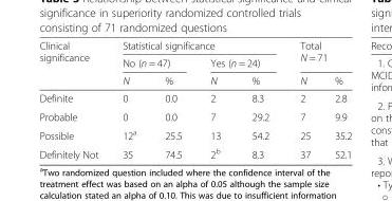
<table><thead><tr><td rowspan="3">Clinical significance</td><td colspan="4">Statistical significance</td><td rowspan="2" colspan="2">Total N = 71</td></tr><tr><td colspan="2">No (n = 47)</td><td colspan="2">Yes (n = 24)</td></tr><tr><td>N</td><td>%</td><td>N</td><td>%</td><td>N</td><td>%</td></tr></thead><tbody><tr><td>Definite</td><td>0</td><td>0.0</td><td>2</td><td>8.3</td><td>2</td><td>2.8</td></tr><tr><td>Probable</td><td>0</td><td>0.0</td><td>7</td><td>29.2</td><td>7</td><td>9.9</td></tr><tr><td>Possible</td><td>12<sup>a</sup></td><td>25.5</td><td>13</td><td>54.2</td><td>25</td><td>35.2</td></tr><tr><td>Definitely Not</td><td>35</td><td>74.5</td><td>2<sup>b</sup></td><td>8.3</td><td>37</td><td>52.1</td></tr></tbody></table>